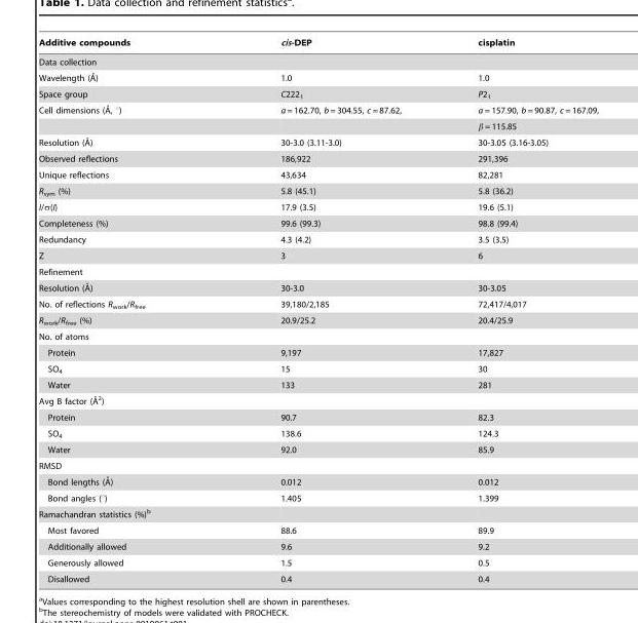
<table><thead><tr><td>Additive compounds</td><td>cis-DEP</td><td>cisplatin</td></tr></thead><tbody><tr><td colspan="3">Data collection</td></tr><tr><td>Wavelength (A˚)</td><td>1.0</td><td>1.0</td></tr><tr><td>Space group</td><td>C222<sub>1</sub></td><td>P2<sub>1</sub></td></tr><tr><td rowspan="2">Cell dimensions (A˚, u)</td><td>a = 162.70, b = 304.55, c = 87.62,</td><td>a = 157.90, b = 90.87, c = 167.09,</td></tr><tr><td></td><td>β = 115.85</td></tr><tr><td>Resolution (A˚)</td><td>30-3.0 (3.11-3.0)</td><td>30-3.05 (3.16-3.05)</td></tr><tr><td>Observed reflections</td><td>186,922</td><td>291,396</td></tr><tr><td>Unique reflections</td><td>43,634</td><td>82,281</td></tr><tr><td>R<sub>sym</sub> (%)</td><td>5.8 (45.1)</td><td>5.8 (36.2)</td></tr><tr><td>I/σ(I)</td><td>17.9 (3.5)</td><td>19.6 (5.1)</td></tr><tr><td>Completeness (%)</td><td>99.6 (99.3)</td><td>98.8 (99.4)</td></tr><tr><td>Redundancy</td><td>4.3 (4.2)</td><td>3.5 (3.5)</td></tr><tr><td>Z</td><td>3</td><td>6</td></tr><tr><td colspan="3">Refinement</td></tr><tr><td>Resolution (A˚)</td><td>30-3.0</td><td>30-3.05</td></tr><tr><td>No. of reflections R<sub>work</sub>/R<sub>free</sub></td><td>39,180/2,185</td><td>72,417/4,017</td></tr><tr><td>R<sub>work</sub>/R<sub>free</sub> (%)</td><td>20.9/25.2</td><td>20.4/25.9</td></tr><tr><td colspan="3">No. of atoms</td></tr><tr><td>Protein</td><td>9,197</td><td>17,827</td></tr><tr><td>SO<sub>4</sub></td><td>15</td><td>30</td></tr><tr><td>Water</td><td>133</td><td>281</td></tr><tr><td colspan="3">Avg B factor (A˚ 2)</td></tr><tr><td>Protein</td><td>90.7</td><td>82.3</td></tr><tr><td>SO<sub>4</sub></td><td>138.6</td><td>124.3</td></tr><tr><td>Water</td><td>92.0</td><td>85.9</td></tr><tr><td colspan="3">RMSD</td></tr><tr><td>Bond lengths (A˚)</td><td>0.012</td><td>0.012</td></tr><tr><td>Bond angles (°)</td><td>1.405</td><td>1.399</td></tr><tr><td colspan="3">Ramachandran statistics (%)<sup>b</sup></td></tr><tr><td>Most favored</td><td>88.6</td><td>89.9</td></tr><tr><td>Additionally allowed</td><td>9.6</td><td>9.2</td></tr><tr><td>Generously allowed</td><td>1.5</td><td>0.5</td></tr><tr><td>Disallowed</td><td>0.4</td><td>0.4</td></tr></tbody></table>